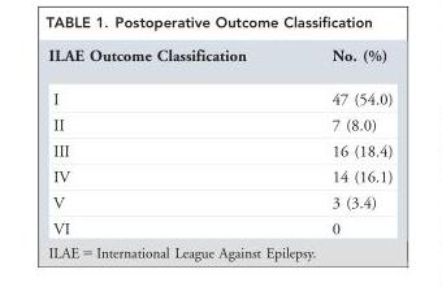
<table><thead><tr><td>ILAE Outcome Classification</td><td>No. (%)</td></tr></thead><tbody><tr><td>I</td><td>47 (54.0)</td></tr><tr><td>II</td><td>7 (8.0)</td></tr><tr><td>III</td><td>16 (18.4)</td></tr><tr><td>IV</td><td>14 (16.1)</td></tr><tr><td>V</td><td>3 (3.4)</td></tr><tr><td>VI</td><td>0</td></tr></tbody></table>